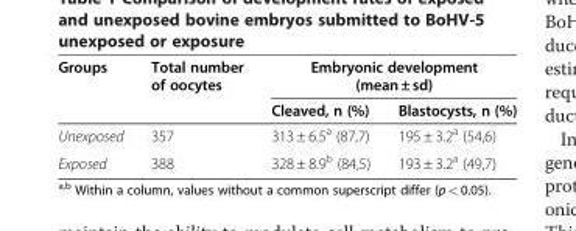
<table><thead><tr><td rowspan="2">Groups</td><td rowspan="2">Total number of oocytes</td><td colspan="2">Embryonic development (mean ± sd)</td></tr><tr><td>Cleaved, n (%)</td><td>Blastocysts, n (%)</td></tr></thead><tbody><tr><td>Unexposed</td><td>357</td><td>313 ± 6.5<sup>a</sup> (87,7)</td><td>195 ± 3.2<sup>a</sup> (54,6)</td></tr><tr><td>Exposed</td><td>388</td><td>328 ± 8.9<sup>b</sup> (84,5)</td><td>193 ± 3.2<sup>a</sup> (49,7)</td></tr></tbody></table>